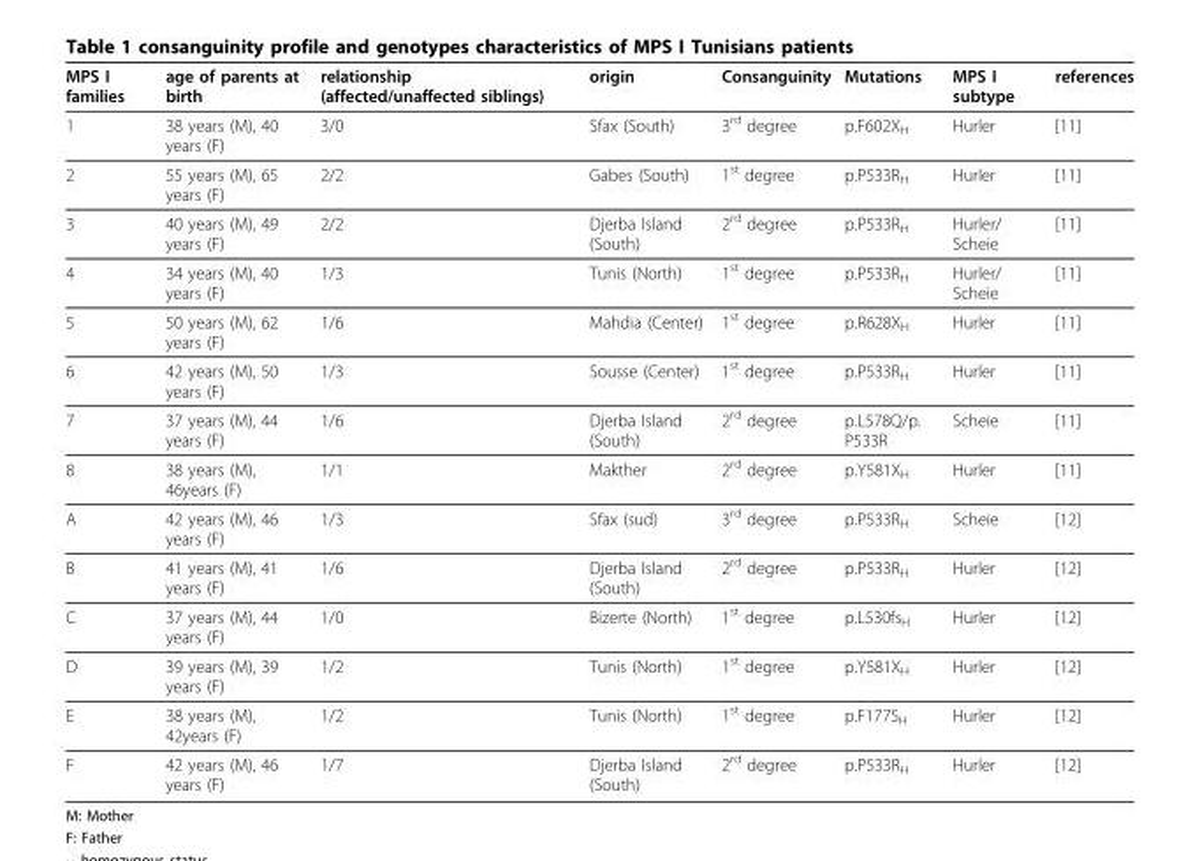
<table><thead><tr><td>MPS I families</td><td>age of parents at birth</td><td>relationship (affected/unaffected siblings)</td><td>origin</td><td>Consanguinity</td><td>Mutations</td><td>MPS I subtype</td><td>references</td></tr></thead><tbody><tr><td>1</td><td>38 years (M), 40 years (F)</td><td>3/0</td><td>Sfax (South)</td><td>3<sup>rd</sup> degree</td><td>p.F602X<sub>H</sub></td><td>Hurler</td><td>[11]</td></tr><tr><td>2</td><td>55 years (M), 65 years (F)</td><td>2/2</td><td>Gabes (South)</td><td>1<sup>st</sup> degree</td><td>p.P533R<sub>H</sub></td><td>Hurler</td><td>[11]</td></tr><tr><td>3</td><td>40 years (M), 49 years (F)</td><td>2/2</td><td>Djerba Island (South)</td><td>2<sup>rd</sup> degree</td><td>p.P533R<sub>H</sub></td><td>Hurler/ Scheie</td><td>[11]</td></tr><tr><td>4</td><td>34 years (M), 40 years (F)</td><td>1/3</td><td>Tunis (North)</td><td>1<sup>st</sup> degree</td><td>p.P533R<sub>H</sub></td><td>Hurler/ Scheie</td><td>[11]</td></tr><tr><td>5</td><td>50 years (M), 62 years (F)</td><td>1/6</td><td>Mahdia (Center)</td><td>1<sup>st</sup> degree</td><td>p.R628X<sub>H</sub></td><td>Hurler</td><td>[11]</td></tr><tr><td>6</td><td>42 years (M), 50 years (F)</td><td>1/3</td><td>Sousse (Center)</td><td>1<sup>st</sup> degree</td><td>p.P533R<sub>H</sub></td><td>Hurler</td><td>[11]</td></tr><tr><td>7</td><td>37 years (M), 44 years (F)</td><td>1/6</td><td>Djerba Island (South)</td><td>2<sup>rd</sup> degree</td><td>p.L578Q/p. P533R</td><td>Scheie</td><td>[11]</td></tr><tr><td>8</td><td>38 years (M), 46years (F)</td><td>1/1</td><td>Makther</td><td>2<sup>rd</sup> degree</td><td>p.Y581X<sub>H</sub></td><td>Hurler</td><td>[11]</td></tr><tr><td>A</td><td>42 years (M), 46 years (F)</td><td>1/3</td><td>Sfax (sud)</td><td>3<sup>rd</sup> degree</td><td>p.P533R<sub>H</sub></td><td>Scheie</td><td>[12]</td></tr><tr><td>B</td><td>41 years (M), 41 years (F)</td><td>1/6</td><td>Djerba Island (South)</td><td>2<sup>rd</sup> degree</td><td>p.P533R<sub>H</sub></td><td>Hurler</td><td>[12]</td></tr><tr><td>C</td><td>37 years (M), 44 years (F)</td><td>1/0</td><td>Bizerte (North)</td><td>1<sup>st</sup> degree</td><td>p.L530fs<sub>H</sub></td><td>Hurler</td><td>[12]</td></tr><tr><td>D</td><td>39 years (M), 39 years (F)</td><td>1/2</td><td>Tunis (North)</td><td>1<sup>st</sup> degree</td><td>p.Y581X<sub>H</sub></td><td>Hurler</td><td>[12]</td></tr><tr><td>E</td><td>38 years (M), 42years (F)</td><td>1/2</td><td>Tunis (North)</td><td>1<sup>st</sup> degree</td><td>p.F177S<sub>H</sub></td><td>Hurler</td><td>[12]</td></tr><tr><td>F</td><td>42 years (M), 46 years (F)</td><td>1/7</td><td>Djerba Island (South)</td><td>2<sup>rd</sup> degree</td><td>p.P533R<sub>H</sub></td><td>Hurler</td><td>[12]</td></tr></tbody></table>